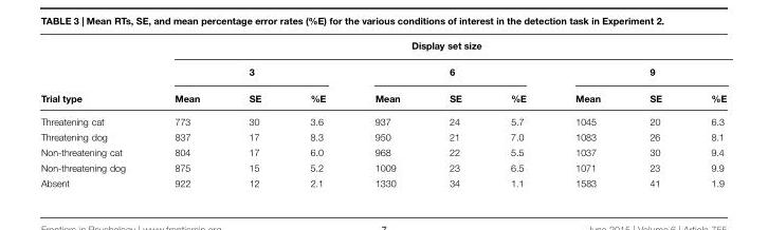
<table><thead><tr><td rowspan="3">Trial type</td><td colspan="9">Display set size</td></tr><tr><td colspan="3">3</td><td colspan="3">6</td><td colspan="3">9</td></tr><tr><td>Mean</td><td>SE</td><td>%E</td><td>Mean</td><td>SE</td><td>%E</td><td>Mean</td><td>SE</td><td>%E</td></tr></thead><tbody><tr><td>Threatening cat</td><td>773</td><td>30</td><td>3.6</td><td>937</td><td>24</td><td>5.7</td><td>1045</td><td>20</td><td>6.3</td></tr><tr><td>Threatening dog</td><td>837</td><td>17</td><td>8.3</td><td>950</td><td>21</td><td>7.0</td><td>1083</td><td>26</td><td>8.1</td></tr><tr><td>Non-threatening cat</td><td>804</td><td>17</td><td>6.0</td><td>968</td><td>22</td><td>5.5</td><td>1037</td><td>30</td><td>9.4</td></tr><tr><td>Non-threatening dog</td><td>875</td><td>15</td><td>5.2</td><td>1009</td><td>23</td><td>6.5</td><td>1071</td><td>23</td><td>9.9</td></tr><tr><td>Absent</td><td>922</td><td>12</td><td>2.1</td><td>1330</td><td>34</td><td>1.1</td><td>1583</td><td>41</td><td>1.9</td></tr></tbody></table>